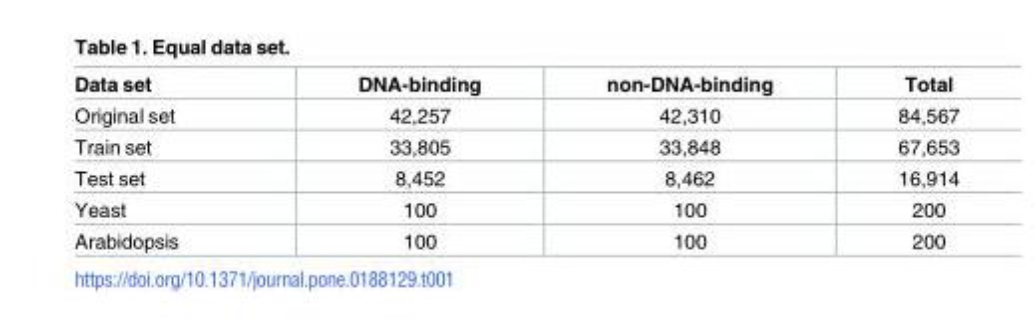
<table><thead><tr><td>Data set</td><td>DNA-binding</td><td>non-DNA-binding</td><td>Total</td></tr></thead><tbody><tr><td>Original set</td><td>42,257</td><td>42,310</td><td>84,567</td></tr><tr><td>Train set</td><td>33,805</td><td>33,848</td><td>67,653</td></tr><tr><td>Test set</td><td>8,452</td><td>8,462</td><td>16,914</td></tr><tr><td>Yeast</td><td>100</td><td>100</td><td>200</td></tr><tr><td>Arabidopsis</td><td>100</td><td>100</td><td>200</td></tr></tbody></table>